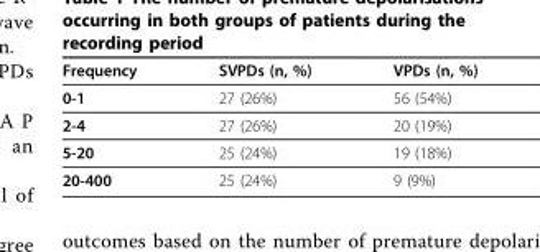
<table><thead><tr><td>Frequency</td><td>SVPDs (n, %)</td><td>VPDs (n, %)</td></tr></thead><tbody><tr><td>0-1</td><td>27 (26%)</td><td>56 (54%)</td></tr><tr><td>2-4</td><td>27 (26%)</td><td>20 (19%)</td></tr><tr><td>5-20</td><td>25 (24%)</td><td>19 (18%)</td></tr><tr><td>20-400</td><td>25 (24%)</td><td>9 (9%)</td></tr></tbody></table>